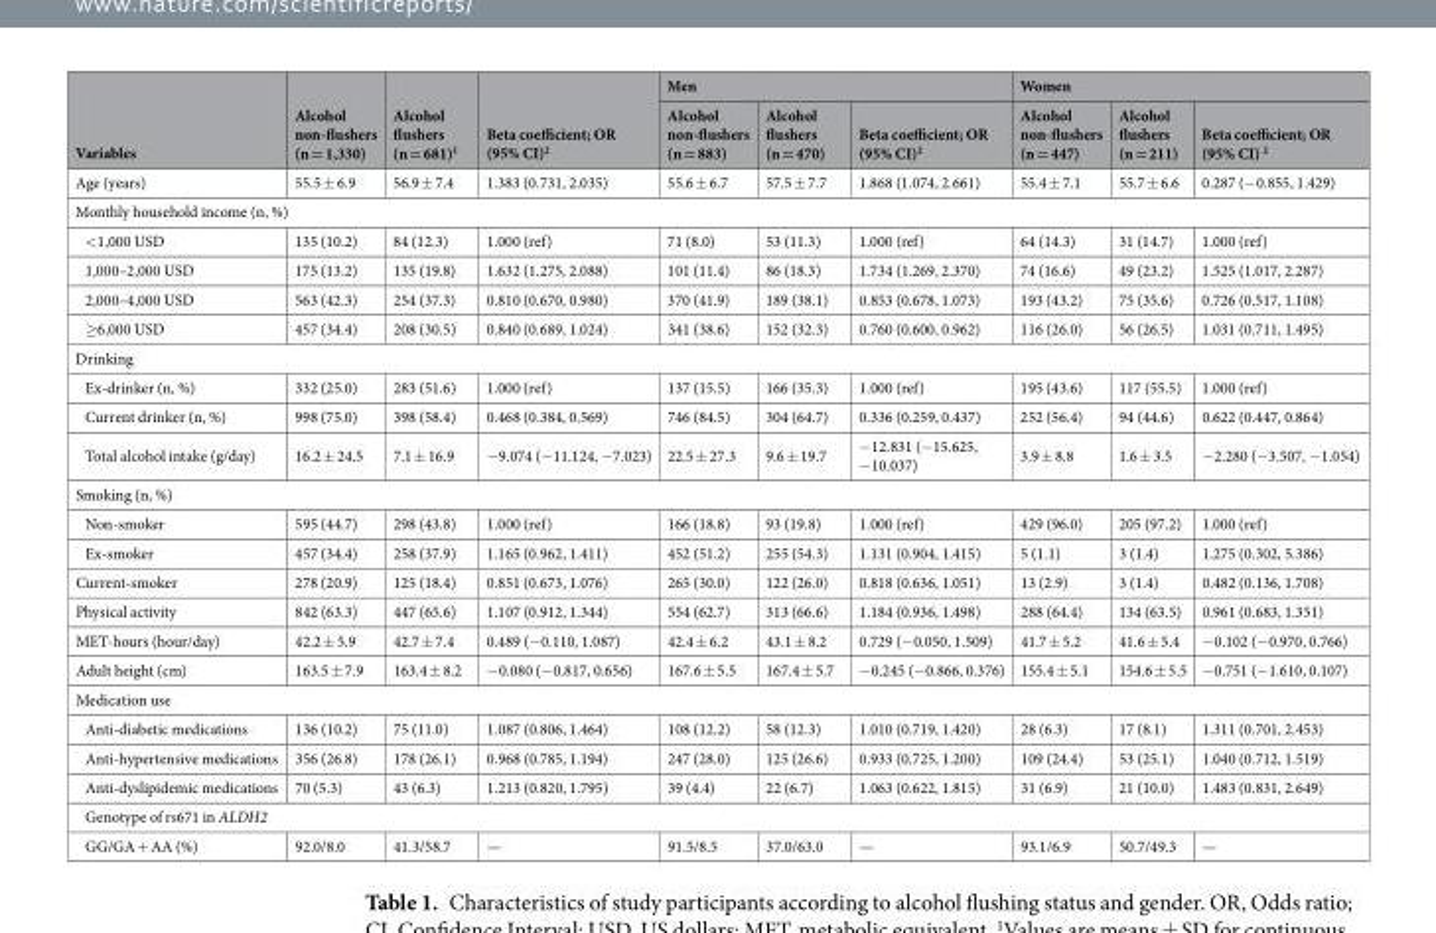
<table><thead><tr><td rowspan="2">Variables</td><td rowspan="2">Alcohol non-flushers (n = 1,330)</td><td rowspan="2">Alcohol flushers (n = 681)<sup>1</sup></td><td rowspan="2">Beta coefficient; OR (95% CI)<sup>2</sup></td><td colspan="3">Men</td><td colspan="3">Women</td></tr><tr><td>Alcohol non-flushers (n = 883)</td><td>Alcohol flushers (n = 470)</td><td>Beta coefficient; OR (95% CI)<sup>2</sup></td><td>Alcohol non-flushers (n = 447)</td><td>Alcohol flushers (n = 211)</td><td>Beta coefficient; OR (95% CI) <sup>2</sup></td></tr></thead><tbody><tr><td>Age (years)</td><td>55.5 ± 6.9</td><td>56.9 ± 7.4</td><td>1.383 (0.731, 2.035)</td><td>55.6 ± 6.7</td><td>57.5 ± 7.7</td><td>1.868 (1.074, 2.661)</td><td>55.4 ± 7.1</td><td>55.7 ± 6.6</td><td>0.287 (−0.855, 1.429)</td></tr><tr><td colspan="10">Monthly household income (n, %)</td></tr><tr><td>&lt;1,000 USD</td><td>135 (10.2)</td><td>84 (12.3)</td><td>1.000 (ref)</td><td>71 (8.0)</td><td>53 (11.3)</td><td>1.000 (ref)</td><td>64 (14.3)</td><td>31 (14.7)</td><td>1.000 (ref)</td></tr><tr><td>1,000–2,000 USD</td><td>175 (13.2)</td><td>135 (19.8)</td><td>1.632 (1.275, 2.088)</td><td>101 (11.4)</td><td>86 (18.3)</td><td>1.734 (1.269, 2.370)</td><td>74 (16.6)</td><td>49 (23.2)</td><td>1.525 (1.017, 2.287)</td></tr><tr><td>2,000–4,000 USD</td><td>563 (42.3)</td><td>254 (37.3)</td><td>0.810 (0.670, 0.980)</td><td>370 (41.9)</td><td>189 (38.1)</td><td>0.853 (0.678, 1.073)</td><td>193 (43.2)</td><td>75 (35.6)</td><td>0.726 (0.517, 1.108)</td></tr><tr><td>≥6,000 USD</td><td>457 (34.4)</td><td>208 (30.5)</td><td>0.840 (0.689, 1.024)</td><td>341 (38.6)</td><td>152 (32.3)</td><td>0.760 (0.600, 0.962)</td><td>116 (26.0)</td><td>56 (26.5)</td><td>1.031 (0.711, 1.495)</td></tr><tr><td colspan="10">Drinking</td></tr><tr><td>Ex-drinker (n, %)</td><td>332 (25.0)</td><td>283 (51.6)</td><td>1.000 (ref)</td><td>137 (15.5)</td><td>166 (35.3)</td><td>1.000 (ref)</td><td>195 (43.6)</td><td>117 (55.5)</td><td>1.000 (ref)</td></tr><tr><td>Current drinker (n, %)</td><td>998 (75.0)</td><td>398 (58.4)</td><td>0.468 (0.384, 0.569)</td><td>746 (84.5)</td><td>304 (64.7)</td><td>0.336 (0.259, 0.437)</td><td>252 (56.4)</td><td>94 (44.6)</td><td>0.622 (0.447, 0.864)</td></tr><tr><td>Total alcohol intake (g/day)</td><td>16.2 ± 24.5</td><td>7.1 ± 16.9</td><td>−9.074 (−11.124, −7.023)</td><td>22.5 ± 27.3</td><td>9.6 ± 19.7</td><td>−12.831 (−15.625, −10.037)</td><td>3.9 ± 8.8</td><td>1.6 ± 3.5</td><td>−2.280 (−3.507, −1.054)</td></tr><tr><td colspan="10">Smoking (n, %)</td></tr><tr><td>Non-smoker</td><td>595 (44.7)</td><td>298 (43.8)</td><td>1.000 (ref)</td><td>166 (18.8)</td><td>93 (19.8)</td><td>1.000 (ref)</td><td>429 (96.0)</td><td>205 (97.2)</td><td>1.000 (ref)</td></tr><tr><td>Ex-smoker</td><td>457 (34.4)</td><td>258 (37.9)</td><td>1.165 (0.962, 1.411)</td><td>452 (51.2)</td><td>255 (54.3)</td><td>1.131 (0.904, 1.415)</td><td>5 (1.1)</td><td>3 (1.4)</td><td>1.275 (0.302, 5.386)</td></tr><tr><td>Current-smoker</td><td>278 (20.9)</td><td>125 (18.4)</td><td>0.851 (0.673, 1.076)</td><td>265 (30.0)</td><td>122 (26.0)</td><td>0.818 (0.636, 1.051)</td><td>13 (2.9)</td><td>3 (1.4)</td><td>0.482 (0.136, 1.708)</td></tr><tr><td>Physical activity</td><td>842 (63.3)</td><td>447 (65.6)</td><td>1.107 (0.912, 1.344)</td><td>554 (62.7)</td><td>313 (66.6)</td><td>1.184 (0.936, 1.498)</td><td>288 (64.4)</td><td>134 (63.5)</td><td>0.961 (0.683, 1.351)</td></tr><tr><td>MET-hours (hour/day)</td><td>42.2 ± 5.9</td><td>42.7 ± 7.4</td><td>0.489 (−0.110, 1.087)</td><td>42.4 ± 6.2</td><td>43.1 ± 8.2</td><td>0.729 (−0.050, 1.509)</td><td>41.7 ± 5.2</td><td>41.6 ± 5.4</td><td>−0.102 (−0.970, 0.766)</td></tr><tr><td>Adult height (cm)</td><td>163.5 ± 7.9</td><td>163.4 ± 8.2</td><td>−0.080 (−0.817, 0.656)</td><td>167.6 ± 5.5</td><td>167.4 ± 5.7</td><td>−0.245 (−0.866, 0.376)</td><td>155.4 ± 5.1</td><td>154.6 ± 5.5</td><td>−0.751 (−1.610, 0.107)</td></tr><tr><td colspan="10">Medication use</td></tr><tr><td>Anti-diabetic medications</td><td>136 (10.2)</td><td>75 (11.0)</td><td>1.087 (0.806, 1.464)</td><td>108 (12.2)</td><td>58 (12.3)</td><td>1.010 (0.719, 1.420)</td><td>28 (6.3)</td><td>17 (8.1)</td><td>1.311 (0.701, 2.453)</td></tr><tr><td>Anti-hypertensive medications</td><td>356 (26.8)</td><td>178 (26.1)</td><td>0.968 (0.785, 1.194)</td><td>247 (28.0)</td><td>125 (26.6)</td><td>0.933 (0.725, 1.200)</td><td>109 (24.4)</td><td>53 (25.1)</td><td>1.040 (0.712, 1.519)</td></tr><tr><td>Anti-dyslipidemic medications</td><td>70 (5.3)</td><td>43 (6.3)</td><td>1.213 (0.820, 1.795)</td><td>39 (4.4)</td><td>22 (6.7)</td><td>1.063 (0.622, 1.815)</td><td>31 (6.9)</td><td>21 (10.0)</td><td>1.483 (0.831, 2.649)</td></tr><tr><td colspan="10">Genotype of rs671 in ALDH2</td></tr><tr><td>GG/GA + AA (%)</td><td>92.0/8.0</td><td>41.3/58.7</td><td>—</td><td>91.5/8.5</td><td>37.0/63.0</td><td>—</td><td>93.1/6.9</td><td>50.7/49.3</td><td>—</td></tr></tbody></table>